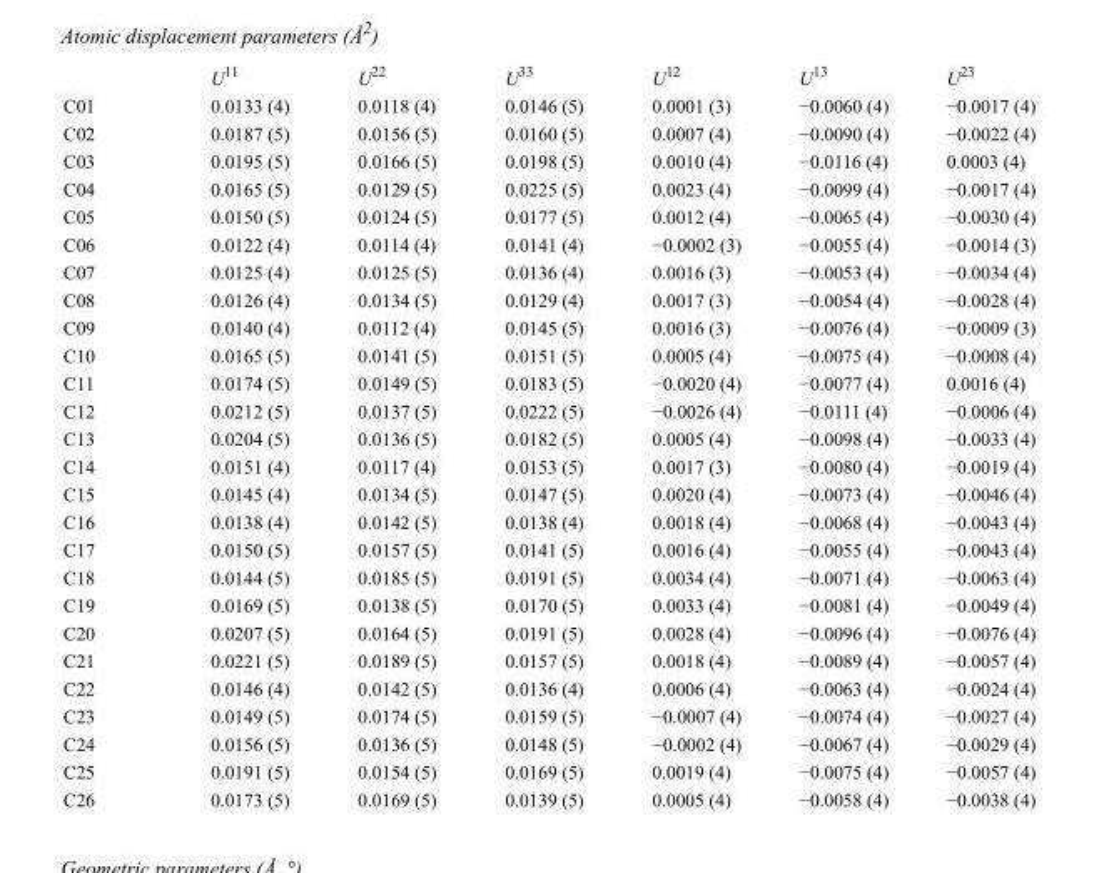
<table><thead><tr><td></td><td>U<sup>11</sup></td><td>U<sup>22</sup></td><td>U<sup>33</sup></td><td>U<sup>12</sup></td><td>U<sup>13</sup></td><td>U<sup>23</sup></td></tr></thead><tbody><tr><td>C01</td><td>0.0133 (4)</td><td>0.0118 (4)</td><td>0.0146 (5)</td><td>0.0001 (3)</td><td>−0.0060 (4)</td><td>−0.0017 (4)</td></tr><tr><td>C02</td><td>0.0187 (5)</td><td>0.0156 (5)</td><td>0.0160 (5)</td><td>0.0007 (4)</td><td>−0.0090 (4)</td><td>−0.0022 (4)</td></tr><tr><td>C03</td><td>0.0195 (5)</td><td>0.0166 (5)</td><td>0.0198 (5)</td><td>0.0010 (4)</td><td>−0.0116 (4)</td><td>0.0003 (4)</td></tr><tr><td>C04</td><td>0.0165 (5)</td><td>0.0129 (5)</td><td>0.0225 (5)</td><td>0.0023 (4)</td><td>−0.0099 (4)</td><td>−0.0017 (4)</td></tr><tr><td>C05</td><td>0.0150 (5)</td><td>0.0124 (5)</td><td>0.0177 (5)</td><td>0.0012 (4)</td><td>−0.0065 (4)</td><td>−0.0030 (4)</td></tr><tr><td>C06</td><td>0.0122 (4)</td><td>0.0114 (4)</td><td>0.0141 (4)</td><td>−0.0002 (3)</td><td>−0.0055 (4)</td><td>−0.0014 (3)</td></tr><tr><td>C07</td><td>0.0125 (4)</td><td>0.0125 (5)</td><td>0.0136 (4)</td><td>0.0016 (3)</td><td>−0.0053 (4)</td><td>−0.0034 (4)</td></tr><tr><td>C08</td><td>0.0126 (4)</td><td>0.0134 (5)</td><td>0.0129 (4)</td><td>0.0017 (3)</td><td>−0.0054 (4)</td><td>−0.0028 (4)</td></tr><tr><td>C09</td><td>0.0140 (4)</td><td>0.0112 (4)</td><td>0.0145 (5)</td><td>0.0016 (3)</td><td>−0.0076 (4)</td><td>−0.0009 (3)</td></tr><tr><td>C10</td><td>0.0165 (5)</td><td>0.0141 (5)</td><td>0.0151 (5)</td><td>0.0005 (4)</td><td>−0.0075 (4)</td><td>−0.0008 (4)</td></tr><tr><td>C11</td><td>0.0174 (5)</td><td>0.0149 (5)</td><td>0.0183 (5)</td><td>−0.0020 (4)</td><td>−0.0077 (4)</td><td>0.0016 (4)</td></tr><tr><td>C12</td><td>0.0212 (5)</td><td>0.0137 (5)</td><td>0.0222 (5)</td><td>−0.0026 (4)</td><td>−0.0111 (4)</td><td>−0.0006 (4)</td></tr><tr><td>C13</td><td>0.0204 (5)</td><td>0.0136 (5)</td><td>0.0182 (5)</td><td>0.0005 (4)</td><td>−0.0098 (4)</td><td>−0.0033 (4)</td></tr><tr><td>C14</td><td>0.0151 (4)</td><td>0.0117 (4)</td><td>0.0153 (5)</td><td>0.0017 (3)</td><td>−0.0080 (4)</td><td>−0.0019 (4)</td></tr><tr><td>C15</td><td>0.0145 (4)</td><td>0.0134 (5)</td><td>0.0147 (5)</td><td>0.0020 (4)</td><td>−0.0073 (4)</td><td>−0.0046 (4)</td></tr><tr><td>C16</td><td>0.0138 (4)</td><td>0.0142 (5)</td><td>0.0138 (4)</td><td>0.0018 (4)</td><td>−0.0068 (4)</td><td>−0.0043 (4)</td></tr><tr><td>C17</td><td>0.0150 (5)</td><td>0.0157 (5)</td><td>0.0141 (5)</td><td>0.0016 (4)</td><td>−0.0055 (4)</td><td>−0.0043 (4)</td></tr><tr><td>C18</td><td>0.0144 (5)</td><td>0.0185 (5)</td><td>0.0191 (5)</td><td>0.0034 (4)</td><td>−0.0071 (4)</td><td>−0.0063 (4)</td></tr><tr><td>C19</td><td>0.0169 (5)</td><td>0.0138 (5)</td><td>0.0170 (5)</td><td>0.0033 (4)</td><td>−0.0081 (4)</td><td>−0.0049 (4)</td></tr><tr><td>C20</td><td>0.0207 (5)</td><td>0.0164 (5)</td><td>0.0191 (5)</td><td>0.0028 (4)</td><td>−0.0096 (4)</td><td>−0.0076 (4)</td></tr><tr><td>C21</td><td>0.0221 (5)</td><td>0.0189 (5)</td><td>0.0157 (5)</td><td>0.0018 (4)</td><td>−0.0089 (4)</td><td>−0.0057 (4)</td></tr><tr><td>C22</td><td>0.0146 (4)</td><td>0.0142 (5)</td><td>0.0136 (4)</td><td>0.0006 (4)</td><td>−0.0063 (4)</td><td>−0.0024 (4)</td></tr><tr><td>C23</td><td>0.0149 (5)</td><td>0.0174 (5)</td><td>0.0159 (5)</td><td>−0.0007 (4)</td><td>−0.0074 (4)</td><td>−0.0027 (4)</td></tr><tr><td>C24</td><td>0.0156 (5)</td><td>0.0136 (5)</td><td>0.0148 (5)</td><td>−0.0002 (4)</td><td>−0.0067 (4)</td><td>−0.0029 (4)</td></tr><tr><td>C25</td><td>0.0191 (5)</td><td>0.0154 (5)</td><td>0.0169 (5)</td><td>0.0019 (4)</td><td>−0.0075 (4)</td><td>−0.0057 (4)</td></tr><tr><td>C26</td><td>0.0173 (5)</td><td>0.0169 (5)</td><td>0.0139 (5)</td><td>0.0005 (4)</td><td>−0.0058 (4)</td><td>−0.0038 (4)</td></tr></tbody></table>